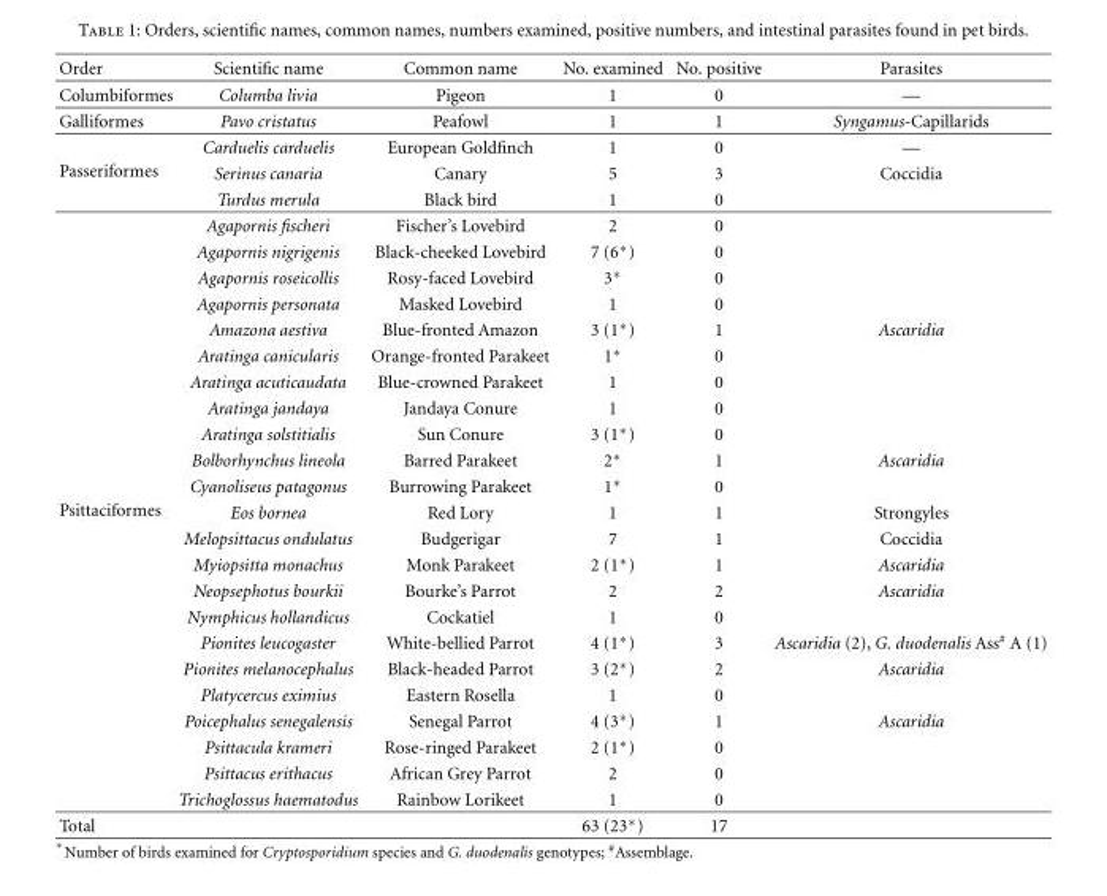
<table><thead><tr><td>Order</td><td>Scientific name</td><td>Common name</td><td>No. examined</td><td>No. positive</td><td>Parasites</td></tr></thead><tbody><tr><td>Columbiformes</td><td>Columba livia</td><td>Pigeon</td><td>1</td><td>0</td><td>—</td></tr><tr><td>Galliformes</td><td>Pavo cristatus</td><td>Peafowl</td><td>1</td><td>1</td><td>Syngamus-Capillarids</td></tr><tr><td rowspan="3">Passeriformes</td><td>Carduelis carduelis</td><td>European Goldfinch</td><td>1</td><td>0</td><td>—</td></tr><tr><td>Serinus canaria</td><td>Canary</td><td>5</td><td>3</td><td>Coccidia</td></tr><tr><td>Turdus merula</td><td>Black bird</td><td>1</td><td>0</td><td></td></tr><tr><td rowspan="23">Psittaciformes</td><td>Agapornis fischeri</td><td>Fischer’s Lovebird</td><td>2</td><td>0</td><td></td></tr><tr><td>Agapornis nigrigenis</td><td>Black-cheeked Lovebird</td><td>7 (6∗)</td><td>0</td><td></td></tr><tr><td>Agapornis roseicollis</td><td>Rosy-faced Lovebird</td><td>3∗</td><td>0</td><td></td></tr><tr><td>Agapornis personata</td><td>Masked Lovebird</td><td>1</td><td>0</td><td></td></tr><tr><td>Amazona aestiva</td><td>Blue-fronted Amazon</td><td>3 (1∗)</td><td>1</td><td>Ascaridia</td></tr><tr><td>Aratinga canicularis</td><td>Orange-fronted Parakeet</td><td>1∗</td><td>0</td><td></td></tr><tr><td>Aratinga acuticaudata</td><td>Blue-crowned Parakeet</td><td>1</td><td>0</td><td></td></tr><tr><td>Aratinga jandaya</td><td>Jandaya Conure</td><td>1</td><td>0</td><td></td></tr><tr><td>Aratinga solstitialis</td><td>Sun Conure</td><td>3 (1∗)</td><td>0</td><td></td></tr><tr><td>Bolborhynchus lineola</td><td>Barred Parakeet</td><td>2∗</td><td>1</td><td>Ascaridia</td></tr><tr><td>Cyanoliseus patagonus</td><td>Burrowing Parakeet</td><td>1∗</td><td>0</td><td></td></tr><tr><td>Eos bornea</td><td>Red Lory</td><td>1</td><td>1</td><td>Strongyles</td></tr><tr><td>Melopsittacus ondulatus</td><td>Budgerigar</td><td>7</td><td>1</td><td>Coccidia</td></tr><tr><td>Myiopsitta monachus</td><td>Monk Parakeet</td><td>2 (1∗)</td><td>1</td><td>Ascaridia</td></tr><tr><td>Neopsephotus bourkii</td><td>Bourke’s Parrot</td><td>2</td><td>2</td><td>Ascaridia</td></tr><tr><td>Nymphicus hollandicus</td><td>Cockatiel</td><td>1</td><td>0</td><td></td></tr><tr><td>Pionites leucogaster</td><td>White-bellied Parrot</td><td>4 (1∗)</td><td>3</td><td>Ascaridia (2), G. duodenalis Ass<sup>#</sup> A (1)</td></tr><tr><td>Pionites melanocephalus</td><td>Black-headed Parrot</td><td>3 (2∗)</td><td>2</td><td>Ascaridia</td></tr><tr><td>Platycercus eximius</td><td>Eastern Rosella</td><td>1</td><td>0</td><td></td></tr><tr><td>Poicephalus senegalensis</td><td>Senegal Parrot</td><td>4 (3∗)</td><td>1</td><td>Ascaridia</td></tr><tr><td>Psittacula krameri</td><td>Rose-ringed Parakeet</td><td>2 (1∗)</td><td>0</td><td></td></tr><tr><td>Psittacus erithacus</td><td>African Grey Parrot</td><td>2</td><td>0</td><td></td></tr><tr><td>Trichoglossus haematodus</td><td>Rainbow Lorikeet</td><td>1</td><td>0</td><td></td></tr><tr><td>Total</td><td></td><td></td><td>63 (23∗)</td><td>17</td><td></td></tr></tbody></table>